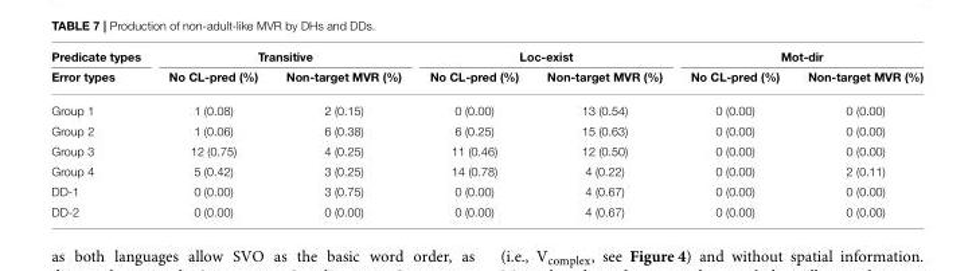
<table><thead><tr><td rowspan="2">Predicate types Error types</td><td colspan="2">Transitive</td><td colspan="2">Loc-exist</td><td colspan="2">Mot-dir</td></tr><tr><td>No CL-pred (%)</td><td>Non-target MVR (%)</td><td>No CL-pred (%)</td><td>Non-target MVR (%)</td><td>No CL-pred (%)</td><td>Non-target MVR (%)</td></tr></thead><tbody><tr><td>Group 1</td><td>1 (0.08)</td><td>2 (0.15)</td><td>0 (0.00)</td><td>13 (0.54)</td><td>0 (0.00)</td><td>0 (0.00)</td></tr><tr><td>Group 2</td><td>1 (0.06)</td><td>6 (0.38)</td><td>6 (0.25)</td><td>15 (0.63)</td><td>0 (0.00)</td><td>0 (0.00)</td></tr><tr><td>Group 3</td><td>12 (0.75)</td><td>4 (0.25)</td><td>11 (0.46)</td><td>12 (0.50)</td><td>0 (0.00)</td><td>0 (0.00)</td></tr><tr><td>Group 4</td><td>5 (0.42)</td><td>3 (0.25)</td><td>14 (0.78)</td><td>4 (0.22)</td><td>0 (0.00)</td><td>2 (0.11)</td></tr><tr><td>DD-1</td><td>0 (0.00)</td><td>3 (0.75)</td><td>0 (0.00)</td><td>4 (0.67)</td><td>0 (0.00)</td><td>0 (0.00)</td></tr><tr><td>DD-2</td><td>0 (0.00)</td><td>0 (0.00)</td><td>0 (0.00)</td><td>4 (0.67)</td><td>0 (0.00)</td><td>0 (0.00)</td></tr></tbody></table>